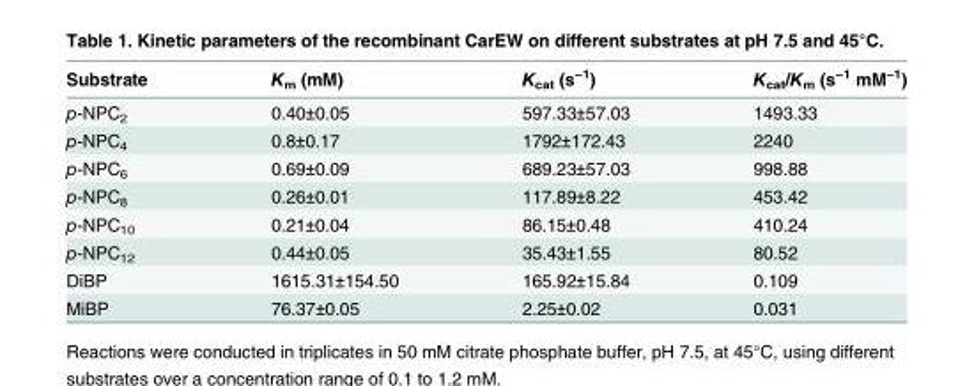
<table><thead><tr><td>Substrate</td><td>K<sub>m</sub> (mM)</td><td>K<sub>cat</sub> (s<sup>−1</sup>)</td><td>K<sub>cat</sub>/K<sub>m</sub> (s<sup>−1</sup> mM<sup>−1</sup>)</td></tr></thead><tbody><tr><td>p-NPC<sub>2</sub></td><td>0.40±0.05</td><td>597.33±57.03</td><td>1493.33</td></tr><tr><td>p-NPC<sub>4</sub></td><td>0.8±0.17</td><td>1792±172.43</td><td>2240</td></tr><tr><td>p-NPC<sub>6</sub></td><td>0.69±0.09</td><td>689.23±57.03</td><td>998.88</td></tr><tr><td>p-NPC<sub>8</sub></td><td>0.26±0.01</td><td>117.89±8.22</td><td>453.42</td></tr><tr><td>p-NPC<sub>10</sub></td><td>0.21±0.04</td><td>86.15±0.48</td><td>410.24</td></tr><tr><td>p-NPC<sub>12</sub></td><td>0.44±0.05</td><td>35.43±1.55</td><td>80.52</td></tr><tr><td>DiBP</td><td>1615.31±154.50</td><td>165.92±15.84</td><td>0.109</td></tr><tr><td>MiBP</td><td>76.37±0.05</td><td>2.25±0.02</td><td>0.031</td></tr></tbody></table>